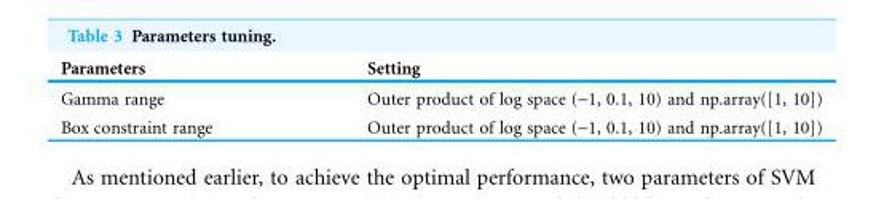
<table><thead><tr><td>Parameters</td><td>Setting</td></tr></thead><tbody><tr><td>Gamma range</td><td>Outer product of log space (-1, 0.1, 10) and np.array([1, 10])</td></tr><tr><td>Box constraint range</td><td>Outer product of log space (-1, 0.1, 10) and np.array([1, 10])</td></tr></tbody></table>